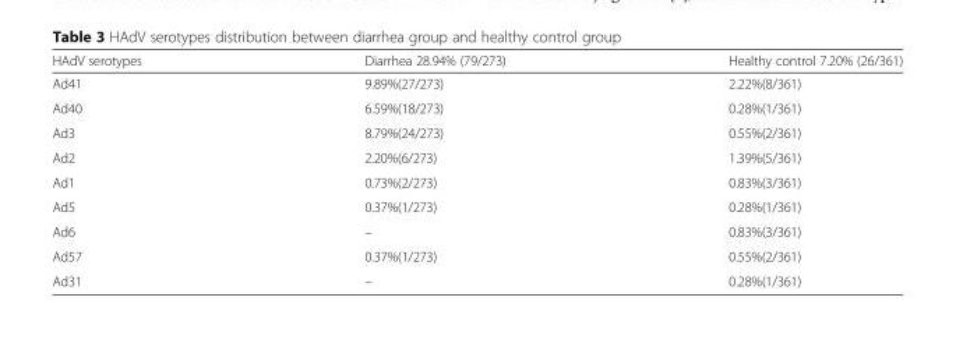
<table><thead><tr><td>HAdV serotypes</td><td>Diarrhea 28.94% (79/273)</td><td>Healthy control 7.20% (26/361)</td></tr></thead><tbody><tr><td>Ad41</td><td>9.89%(27/273)</td><td>2.22%(8/361)</td></tr><tr><td>Ad40</td><td>6.59%(18/273)</td><td>0.28%(1/361)</td></tr><tr><td>Ad3</td><td>8.79%(24/273)</td><td>0.55%(2/361)</td></tr><tr><td>Ad2</td><td>2.20%(6/273)</td><td>1.39%(5/361)</td></tr><tr><td>Ad1</td><td>0.73%(2/273)</td><td>0.83%(3/361)</td></tr><tr><td>Ad5</td><td>0.37%(1/273)</td><td>0.28%(1/361)</td></tr><tr><td>Ad6</td><td>–</td><td>0.83%(3/361)</td></tr><tr><td>Ad57</td><td>0.37%(1/273)</td><td>0.55%(2/361)</td></tr><tr><td>Ad31</td><td>–</td><td>0.28%(1/361)</td></tr></tbody></table>